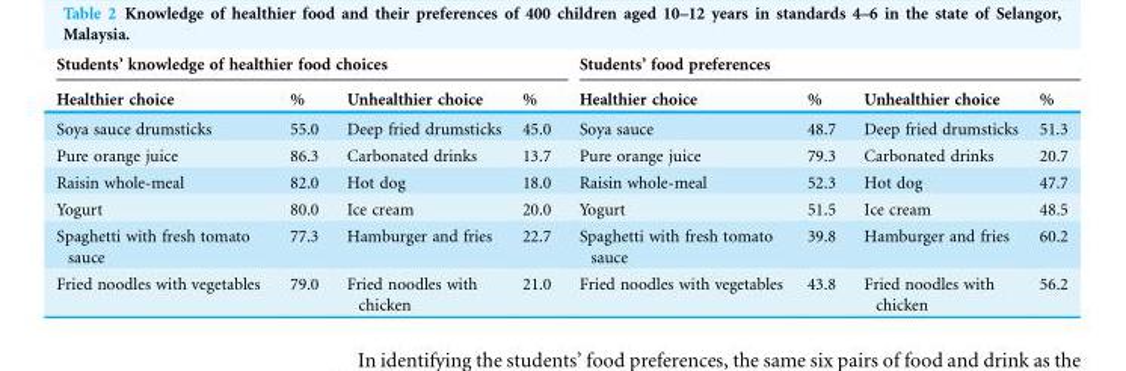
<table><thead><tr><td colspan="4">Students’ knowledge of healthier food choices</td><td colspan="4">Students’ food preferences</td></tr><tr><td>Healthier choice</td><td>%</td><td>Unhealthier choice</td><td>%</td><td>Healthier choice</td><td>%</td><td>Unhealthier choice</td><td>%</td></tr></thead><tbody><tr><td>Soya sauce drumsticks</td><td>55.0</td><td>Deep fried drumsticks</td><td>45.0</td><td>Soya sauce</td><td>48.7</td><td>Deep fried drumsticks</td><td>51.3</td></tr><tr><td>Pure orange juice</td><td>86.3</td><td>Carbonated drinks</td><td>13.7</td><td>Pure orange juice</td><td>79.3</td><td>Carbonated drinks</td><td>20.7</td></tr><tr><td>Raisin whole-meal</td><td>82.0</td><td>Hot dog</td><td>18.0</td><td>Raisin whole-meal</td><td>52.3</td><td>Hot dog</td><td>47.7</td></tr><tr><td>Yogurt</td><td>80.0</td><td>Ice cream</td><td>20.0</td><td>Yogurt</td><td>51.5</td><td>Ice cream</td><td>48.5</td></tr><tr><td>Spaghetti with fresh tomato sauce</td><td>77.3</td><td>Hamburger and fries</td><td>22.7</td><td>Spaghetti with fresh tomato sauce</td><td>39.8</td><td>Hamburger and fries</td><td>60.2</td></tr><tr><td>Fried noodles with vegetables</td><td>79.0</td><td>Fried noodles with chicken</td><td>21.0</td><td>Fried noodles with vegetables</td><td>43.8</td><td>Fried noodles with chicken</td><td>56.2</td></tr></tbody></table>